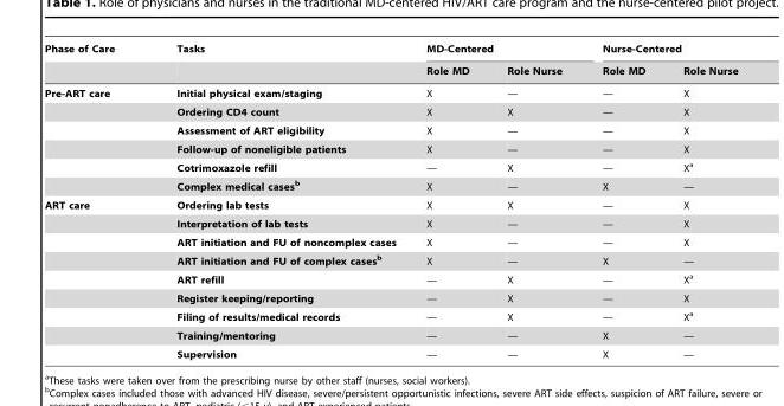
<table><thead><tr><td rowspan="2">Phase of Care</td><td rowspan="2">Tasks</td><td colspan="2">MD-Centered</td><td colspan="2">Nurse-Centered</td></tr><tr><td>Role MD</td><td>Role Nurse</td><td>Role MD</td><td>Role Nurse</td></tr></thead><tbody><tr><td rowspan="6">Pre-ART care</td><td>Initial physical exam/staging</td><td>X</td><td>—</td><td>—</td><td>X</td></tr><tr><td>Ordering CD4 count</td><td>X</td><td>X</td><td>—</td><td>X</td></tr><tr><td>Assessment of ART eligibility</td><td>X</td><td>—</td><td>—</td><td>X</td></tr><tr><td>Follow-up of noneligible patients</td><td>X</td><td>—</td><td>—</td><td>X</td></tr><tr><td>Cotrimoxazole refill</td><td>—</td><td>X</td><td>—</td><td>X<sup>a</sup></td></tr><tr><td>Complex medical casesb</td><td>X</td><td>—</td><td>X</td><td>—</td></tr><tr><td rowspan="9">ART care</td><td>Ordering lab tests</td><td>X</td><td>X</td><td>—</td><td>X</td></tr><tr><td>Interpretation of lab tests</td><td>X</td><td>—</td><td>—</td><td>X</td></tr><tr><td>ART initiation and FU of noncomplex cases</td><td>X</td><td>—</td><td>—</td><td>X</td></tr><tr><td>ART initiation and FU of complex casesb</td><td>X</td><td>—</td><td>X</td><td>—</td></tr><tr><td>ART refill</td><td>—</td><td>X</td><td>—</td><td>X<sup>a</sup></td></tr><tr><td>Register keeping/reporting</td><td>—</td><td>X</td><td>—</td><td>X</td></tr><tr><td>Filing of results/medical records</td><td>—</td><td>X</td><td>—</td><td>X<sup>a</sup></td></tr><tr><td>Training/mentoring</td><td>—</td><td>—</td><td>X</td><td>—</td></tr><tr><td>Supervision</td><td>—</td><td>—</td><td>X</td><td>—</td></tr></tbody></table>